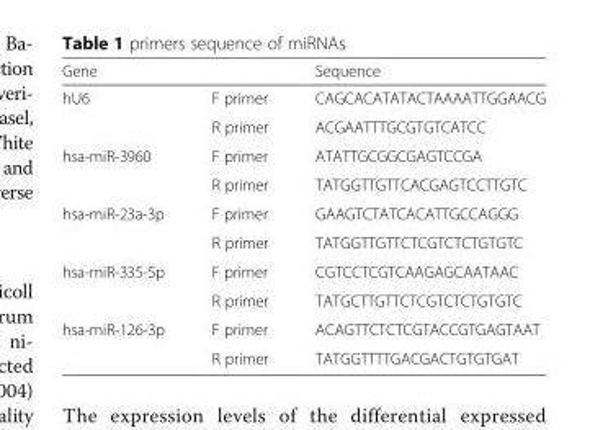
<table><thead><tr><td>Gene</td><td></td><td>Sequence</td></tr></thead><tbody><tr><td rowspan="2">hU6</td><td>F primer</td><td>CAGCACATATACTAAAATTGGAACG</td></tr><tr><td>R primer</td><td>ACGAATTTGCGTGTCATCC</td></tr><tr><td rowspan="2">hsa-miR-3960</td><td>F primer</td><td>ATATTGCGGCGAGTCCGA</td></tr><tr><td>R primer</td><td>TATGGTTGTTCACGAGTCCTTGTC</td></tr><tr><td rowspan="2">hsa-miR-23a-3p</td><td>F primer</td><td>GAAGTCTATCACATTGCCAGGG</td></tr><tr><td>R primer</td><td>TATGGTTGTTCTCGTCTCTGTGTC</td></tr><tr><td rowspan="2">hsa-miR-335-5p</td><td>F primer</td><td>CGTCCTCGTCAAGAGCAATAAC</td></tr><tr><td>R primer</td><td>TATGCTTGTTCTCGTCTCTGTGTC</td></tr><tr><td rowspan="2">hsa-miR-126-3p</td><td>F primer</td><td>ACAGTTCTCTCGTACCGTGAGTAAT</td></tr><tr><td>R primer</td><td>TATGGTTTTGACGACTGTGTGAT</td></tr></tbody></table>